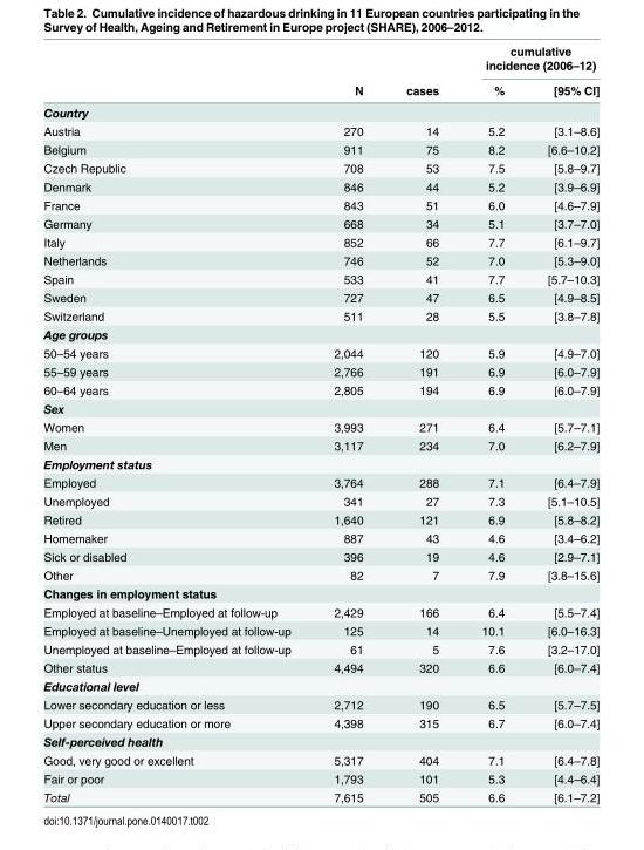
<table><thead><tr><td rowspan="2"></td><td rowspan="2">N</td><td rowspan="2">cases</td><td colspan="2">cumulative incidence (2006–12)</td></tr><tr><td>%</td><td>[95% CI]</td></tr></thead><tbody><tr><td colspan="5">Country</td></tr><tr><td>Austria</td><td>270</td><td>14</td><td>5.2</td><td>[3.1–8.6]</td></tr><tr><td>Belgium</td><td>911</td><td>75</td><td>8.2</td><td>[6.6–10.2]</td></tr><tr><td>Czech Republic</td><td>708</td><td>53</td><td>7.5</td><td>[5.8–9.7]</td></tr><tr><td>Denmark</td><td>846</td><td>44</td><td>5.2</td><td>[3.9–6.9]</td></tr><tr><td>France</td><td>843</td><td>51</td><td>6.0</td><td>[4.6–7.9]</td></tr><tr><td>Germany</td><td>668</td><td>34</td><td>5.1</td><td>[3.7–7.0]</td></tr><tr><td>Italy</td><td>852</td><td>66</td><td>7.7</td><td>[6.1–9.7]</td></tr><tr><td>Netherlands</td><td>746</td><td>52</td><td>7.0</td><td>[5.3–9.0]</td></tr><tr><td>Spain</td><td>533</td><td>41</td><td>7.7</td><td>[5.7–10.3]</td></tr><tr><td>Sweden</td><td>727</td><td>47</td><td>6.5</td><td>[4.9–8.5]</td></tr><tr><td>Switzerland</td><td>511</td><td>28</td><td>5.5</td><td>[3.8–7.8]</td></tr><tr><td colspan="5">Age groups</td></tr><tr><td>50–54 years</td><td>2,044</td><td>120</td><td>5.9</td><td>[4.9–7.0]</td></tr><tr><td>55–59 years</td><td>2,766</td><td>191</td><td>6.9</td><td>[6.0–7.9]</td></tr><tr><td>60–64 years</td><td>2,805</td><td>194</td><td>6.9</td><td>[6.0–7.9]</td></tr><tr><td colspan="5">Sex</td></tr><tr><td>Women</td><td>3,993</td><td>271</td><td>6.4</td><td>[5.7–7.1]</td></tr><tr><td>Men</td><td>3,117</td><td>234</td><td>7.0</td><td>[6.2–7.9]</td></tr><tr><td colspan="5">Employment status</td></tr><tr><td>Employed</td><td>3,764</td><td>288</td><td>7.1</td><td>[6.4–7.9]</td></tr><tr><td>Unemployed</td><td>341</td><td>27</td><td>7.3</td><td>[5.1–10.5]</td></tr><tr><td>Retired</td><td>1,640</td><td>121</td><td>6.9</td><td>[5.8–8.2]</td></tr><tr><td>Homemaker</td><td>887</td><td>43</td><td>4.6</td><td>[3.4–6.2]</td></tr><tr><td>Sick or disabled</td><td>396</td><td>19</td><td>4.6</td><td>[2.9–7.1]</td></tr><tr><td>Other</td><td>82</td><td>7</td><td>7.9</td><td>[3.8–15.6]</td></tr><tr><td colspan="5">Changes in employment status</td></tr><tr><td>Employed at baseline–Employed at follow-up</td><td>2,429</td><td>166</td><td>6.4</td><td>[5.5–7.4]</td></tr><tr><td>Employed at baseline–Unemployed at follow-up</td><td>125</td><td>14</td><td>10.1</td><td>[6.0–16.3]</td></tr><tr><td>Unemployed at baseline–Employed at follow-up</td><td>61</td><td>5</td><td>7.6</td><td>[3.2–17.0]</td></tr><tr><td>Other status</td><td>4,494</td><td>320</td><td>6.6</td><td>[6.0–7.4]</td></tr><tr><td colspan="5">Educational level</td></tr><tr><td>Lower secondary education or less</td><td>2,712</td><td>190</td><td>6.5</td><td>[5.7–7.5]</td></tr><tr><td>Upper secondary education or more</td><td>4,398</td><td>315</td><td>6.7</td><td>[6.0–7.4]</td></tr><tr><td colspan="5">Self-perceived health</td></tr><tr><td>Good, very good or excellent</td><td>5,317</td><td>404</td><td>7.1</td><td>[6.4–7.8]</td></tr><tr><td>Fair or poor</td><td>1,793</td><td>101</td><td>5.3</td><td>[4.4–6.4]</td></tr><tr><td>Total</td><td>7,615</td><td>505</td><td>6.6</td><td>[6.1–7.2]</td></tr></tbody></table>